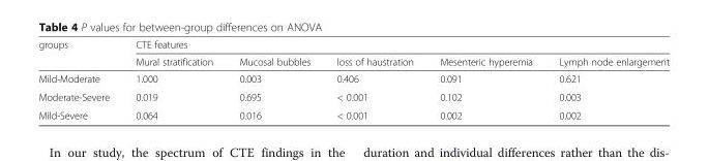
<table><thead><tr><td rowspan="2">groups</td><td colspan="5">CTE features</td></tr><tr><td>Mural stratification</td><td>Mucosal bubbles</td><td>loss of haustration</td><td>Mesenteric hyperemia</td><td>Lymph node enlargement</td></tr></thead><tbody><tr><td>Mild-Moderate</td><td>1.000</td><td>0.003</td><td>0.406</td><td>0.091</td><td>0.621</td></tr><tr><td>Moderate-Severe</td><td>0.019</td><td>0.695</td><td>&lt; 0.001</td><td>0.102</td><td>0.003</td></tr><tr><td>Mild-Severe</td><td>0.064</td><td>0.016</td><td>&lt; 0.001</td><td>0.002</td><td>0.002</td></tr></tbody></table>